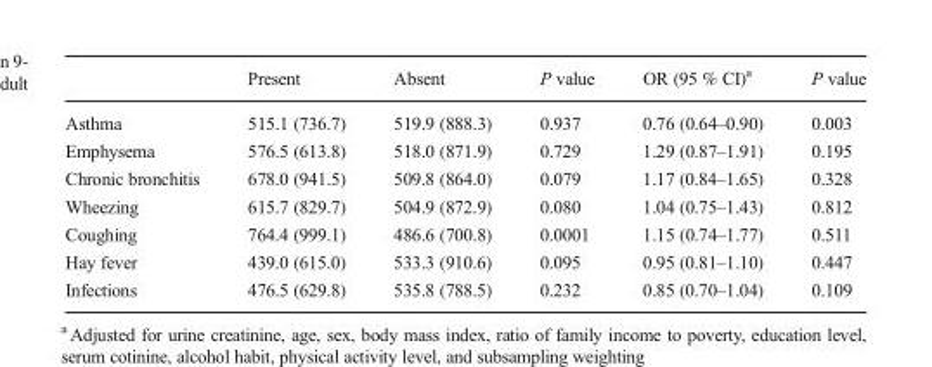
<table><thead><tr><td></td><td>Present</td><td>Absent</td><td>P value</td><td>OR (95 % CI)<sup>a</sup></td><td>P value</td></tr></thead><tbody><tr><td>Asthma</td><td>515.1 (736.7)</td><td>519.9 (888.3)</td><td>0.937</td><td>0.76 (0.64–0.90)</td><td>0.003</td></tr><tr><td>Emphysema</td><td>576.5 (613.8)</td><td>518.0 (871.9)</td><td>0.729</td><td>1.29 (0.87–1.91)</td><td>0.195</td></tr><tr><td>Chronic bronchitis</td><td>678.0 (941.5)</td><td>509.8 (864.0)</td><td>0.079</td><td>1.17 (0.84–1.65)</td><td>0.328</td></tr><tr><td>Wheezing</td><td>615.7 (829.7)</td><td>504.9 (872.9)</td><td>0.080</td><td>1.04 (0.75–1.43)</td><td>0.812</td></tr><tr><td>Coughing</td><td>764.4 (999.1)</td><td>486.6 (700.8)</td><td>0.0001</td><td>1.15 (0.74–1.77)</td><td>0.511</td></tr><tr><td>Hay fever</td><td>439.0 (615.0)</td><td>533.3 (910.6)</td><td>0.095</td><td>0.95 (0.81–1.10)</td><td>0.447</td></tr><tr><td>Infections</td><td>476.5 (629.8)</td><td>535.8 (788.5)</td><td>0.232</td><td>0.85 (0.70–1.04)</td><td>0.109</td></tr></tbody></table>